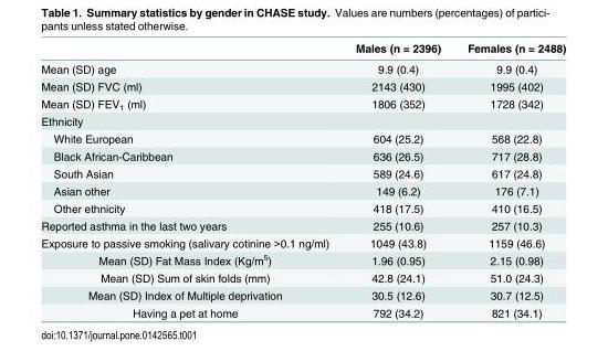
<table><thead><tr><td></td><td>Males (n = 2396)</td><td>Females (n = 2488)</td></tr></thead><tbody><tr><td>Mean (SD) age</td><td>9.9 (0.4)</td><td>9.9 (0.4)</td></tr><tr><td>Mean (SD) FVC (ml)</td><td>2143 (430)</td><td>1995 (402)</td></tr><tr><td>Mean (SD) FEV<sub>1</sub> (ml)</td><td>1806 (352)</td><td>1728 (342)</td></tr><tr><td colspan="3">Ethnicity</td></tr><tr><td>White European</td><td>604 (25.2)</td><td>568 (22.8)</td></tr><tr><td>Black African-Caribbean</td><td>636 (26.5)</td><td>717 (28.8)</td></tr><tr><td>South Asian</td><td>589 (24.6)</td><td>617 (24.8)</td></tr><tr><td>Asian other</td><td>149 (6.2)</td><td>176 (7.1)</td></tr><tr><td>Other ethnicity</td><td>418 (17.5)</td><td>410 (16.5)</td></tr><tr><td>Reported asthma in the last two years</td><td>255 (10.6)</td><td>257 (10.3)</td></tr><tr><td>Exposure to passive smoking (salivary cotinine &gt;0.1 ng/ml)</td><td>1049 (43.8)</td><td>1159 (46.6)</td></tr><tr><td>Mean (SD) Fat Mass Index (Kg/m<sup>5</sup>)</td><td>1.96 (0.95)</td><td>2.15 (0.98)</td></tr><tr><td>Mean (SD) Sum of skin folds (mm)</td><td>42.8 (24.1)</td><td>51.0 (24.3)</td></tr><tr><td>Mean (SD) Index of Multiple deprivation</td><td>30.5 (12.6)</td><td>30.7 (12.5)</td></tr><tr><td>Having a pet at home</td><td>792 (34.2)</td><td>821 (34.1)</td></tr></tbody></table>